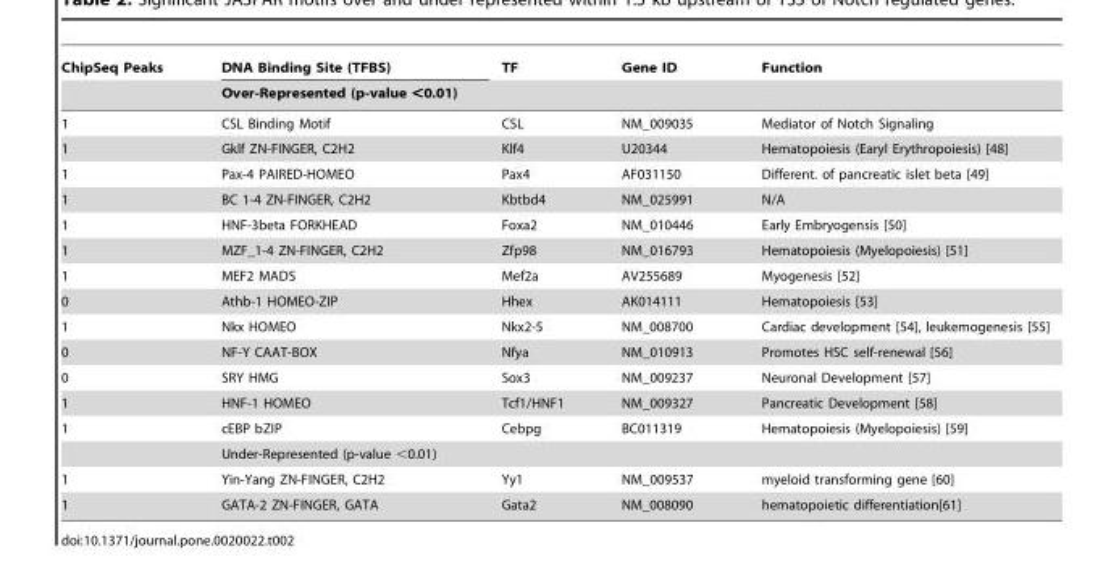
<table><thead><tr><td rowspan="2">ChipSeq Peaks</td><td>DNA Binding Site (TFBS)</td><td>TF</td><td rowspan="2">Gene ID</td><td rowspan="2">Function</td></tr><tr><td colspan="2">Over-Represented (p-value &lt;0.01)</td></tr></thead><tbody><tr><td>1</td><td>CSL Binding Motif</td><td>CSL</td><td>NM_009035</td><td>Mediator of Notch Signaling</td></tr><tr><td>1</td><td>Gklf ZN-FINGER, C2H2</td><td>Klf4</td><td>U20344</td><td>Hematopoiesis (Earyl Erythropoiesis) [48]</td></tr><tr><td>1</td><td>Pax-4 PAIRED-HOMEO</td><td>Pax4</td><td>AF031150</td><td>Different. of pancreatic islet beta [49]</td></tr><tr><td>1</td><td>BC 1-4 ZN-FINGER, C2H2</td><td>Kbtbd4</td><td>NM_025991</td><td>N/A</td></tr><tr><td>1</td><td>HNF-3beta FORKHEAD</td><td>Foxa2</td><td>NM_010446</td><td>Early Embryogensis [50]</td></tr><tr><td>1</td><td>MZF_1-4 ZN-FINGER, C2H2</td><td>Zfp98</td><td>NM_016793</td><td>Hematopoiesis (Myelopoiesis) [51]</td></tr><tr><td>1</td><td>MEF2 MADS</td><td>Mef2a</td><td>AV255689</td><td>Myogenesis [52]</td></tr><tr><td>0</td><td>Athb-1 HOMEO-ZIP</td><td>Hhex</td><td>AK014111</td><td>Hematopoiesis [53]</td></tr><tr><td>1</td><td>Nkx HOMEO</td><td>Nkx2-5</td><td>NM_008700</td><td>Cardiac development [54], leukemogenesis [55]</td></tr><tr><td>0</td><td>NF-Y CAAT-BOX</td><td>Nfya</td><td>NM_010913</td><td>Promotes HSC self-renewal [56]</td></tr><tr><td>0</td><td>SRY HMG</td><td>Sox3</td><td>NM_009237</td><td>Neuronal Development [57]</td></tr><tr><td>1</td><td>HNF-1 HOMEO</td><td>Tcf1/HNF1</td><td>NM_009327</td><td>Pancreatic Development [58]</td></tr><tr><td rowspan="2">1</td><td>cEBP bZIP</td><td>Cebpg</td><td>BC011319</td><td>Hematopoiesis (Myelopoiesis) [59]</td></tr><tr><td colspan="2">Under-Represented (p-value &lt;0.01)</td><td></td><td></td></tr><tr><td>1</td><td>Yin-Yang ZN-FINGER, C2H2</td><td>Yy1</td><td>NM_009537</td><td>myeloid transforming gene [60]</td></tr><tr><td>1</td><td>GATA-2 ZN-FINGER, GATA</td><td>Gata2</td><td>NM_008090</td><td>hematopoietic differentiation[61]</td></tr></tbody></table>